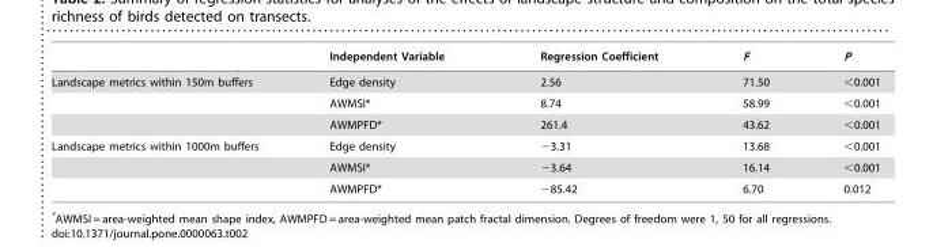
<table><thead><tr><td></td><td>Independent Variable</td><td>Regression Coefficient</td><td>F</td><td>P</td></tr></thead><tbody><tr><td rowspan="3">Landscape metrics within 150m buffers</td><td>Edge density</td><td>2.56</td><td>71.50</td><td>&lt;0.001</td></tr><tr><td>AWMSI*</td><td>8.74</td><td>58.99</td><td>&lt;0.001</td></tr><tr><td>AWMPFD*</td><td>261.4</td><td>43.62</td><td>&lt;0.001</td></tr><tr><td rowspan="3">Landscape metrics within 1000m buffers</td><td>Edge density</td><td>−3.31</td><td>13.68</td><td>&lt;0.001</td></tr><tr><td>AWMSI*</td><td>−3.64</td><td>16.14</td><td>&lt;0.001</td></tr><tr><td>AWMPFD*</td><td>−85.42</td><td>6.70</td><td>0.012</td></tr></tbody></table>